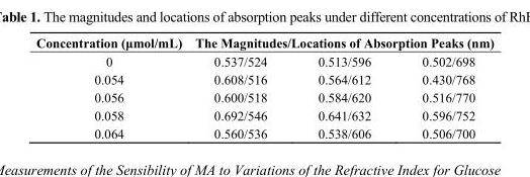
<table><thead><tr><td rowspan="2">Concentration (μmol/mL) 0</td><td colspan="3">The Magnitudes/Locations of Absorption Peaks (nm)</td></tr><tr><td>0.537/524</td><td>0.513/596</td><td>0.502/698</td></tr></thead><tbody><tr><td>0.054</td><td>0.608/516</td><td>0.564/612</td><td>0.430/768</td></tr><tr><td>0.056</td><td>0.600/518</td><td>0.584/620</td><td>0.516/770</td></tr><tr><td>0.058</td><td>0.692/546</td><td>0.641/632</td><td>0.596/752</td></tr><tr><td>0.064</td><td>0.560/536</td><td>0.538/606</td><td>0.506/700</td></tr></tbody></table>